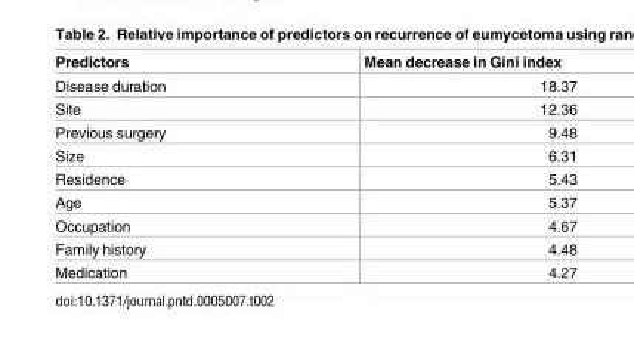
<table><thead><tr><td>Predictors</td><td>Mean decrease in Gini index</td></tr></thead><tbody><tr><td>Disease duration</td><td>18.37</td></tr><tr><td>Site</td><td>12.36</td></tr><tr><td>Previous surgery</td><td>9.48</td></tr><tr><td>Size</td><td>6.31</td></tr><tr><td>Residence</td><td>5.43</td></tr><tr><td>Age</td><td>5.37</td></tr><tr><td>Occupation</td><td>4.67</td></tr><tr><td>Family history</td><td>4.48</td></tr><tr><td>Medication</td><td>4.27</td></tr></tbody></table>